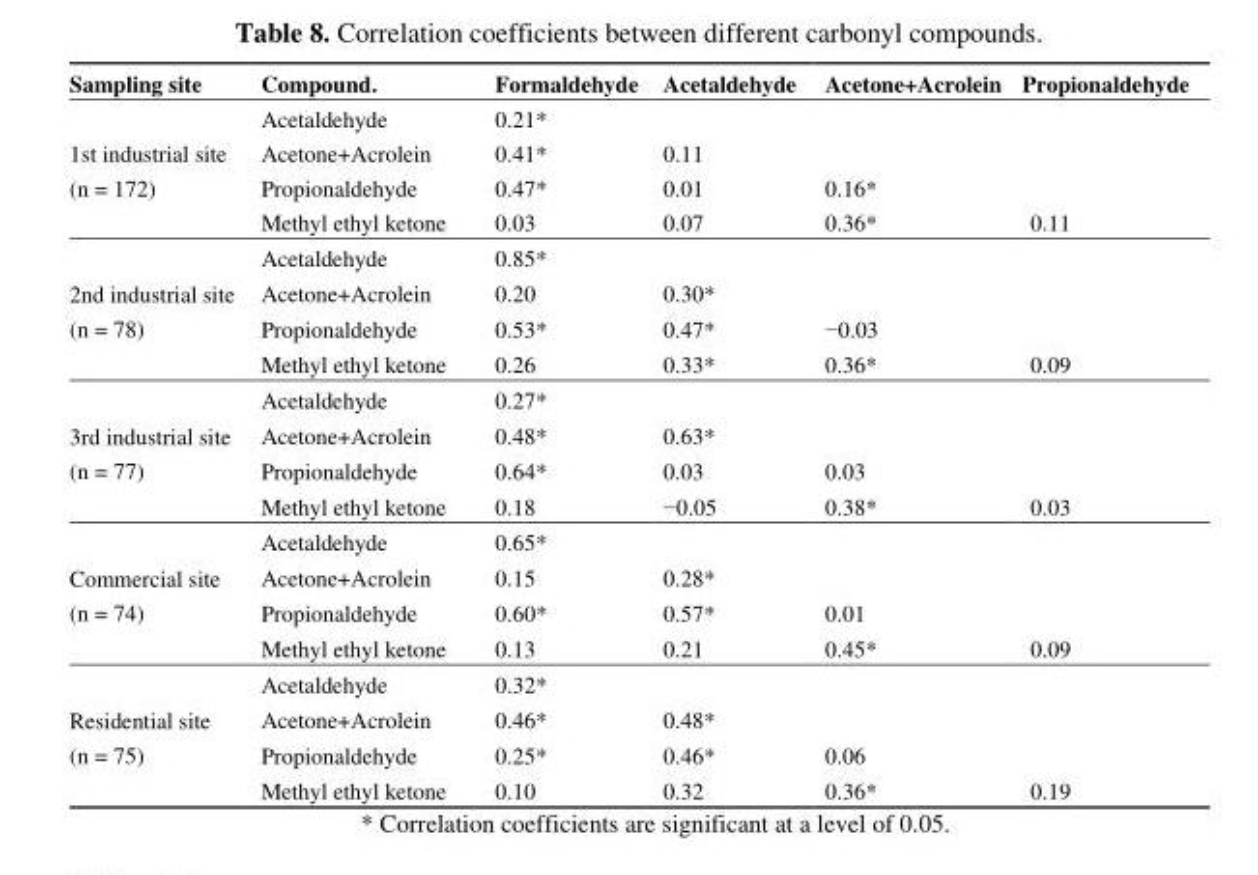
<table><thead><tr><td>Sampling site</td><td>Compound.</td><td>Formaldehyde</td><td>Acetaldehyde</td><td>Acetone+Acrolein</td><td>Propionaldehyde</td></tr></thead><tbody><tr><td rowspan="4">1st industrial site (n = 172)</td><td>Acetaldehyde</td><td>0.21*</td><td></td><td></td><td></td></tr><tr><td>Acetone+Acrolein</td><td>0.41*</td><td>0.11</td><td></td><td></td></tr><tr><td>Propionaldehyde</td><td>0.47*</td><td>0.01</td><td>0.16*</td><td></td></tr><tr><td>Methyl ethyl ketone</td><td>0.03</td><td>0.07</td><td>0.36*</td><td>0.11</td></tr><tr><td rowspan="4">2nd industrial site (n = 78)</td><td>Acetaldehyde</td><td>0.85*</td><td></td><td></td><td></td></tr><tr><td>Acetone+Acrolein</td><td>0.20</td><td>0.30*</td><td></td><td></td></tr><tr><td>Propionaldehyde</td><td>0.53*</td><td>0.47*</td><td>−0.03</td><td></td></tr><tr><td>Methyl ethyl ketone</td><td>0.26</td><td>0.33*</td><td>0.36*</td><td>0.09</td></tr><tr><td rowspan="4">3rd industrial site (n = 77)</td><td>Acetaldehyde</td><td>0.27*</td><td></td><td></td><td></td></tr><tr><td>Acetone+Acrolein</td><td>0.48*</td><td>0.63*</td><td></td><td></td></tr><tr><td>Propionaldehyde</td><td>0.64*</td><td>0.03</td><td>0.03</td><td></td></tr><tr><td>Methyl ethyl ketone</td><td>0.18</td><td>−0.05</td><td>0.38*</td><td>0.03</td></tr><tr><td rowspan="4">Commercial site (n = 74)</td><td>Acetaldehyde</td><td>0.65*</td><td></td><td></td><td></td></tr><tr><td>Acetone+Acrolein</td><td>0.15</td><td>0.28*</td><td></td><td></td></tr><tr><td>Propionaldehyde</td><td>0.60*</td><td>0.57*</td><td>0.01</td><td></td></tr><tr><td>Methyl ethyl ketone</td><td>0.13</td><td>0.21</td><td>0.45*</td><td>0.09</td></tr><tr><td rowspan="4">Residential site (n = 75)</td><td>Acetaldehyde</td><td>0.32*</td><td></td><td></td><td></td></tr><tr><td>Acetone+Acrolein</td><td>0.46*</td><td>0.48*</td><td></td><td></td></tr><tr><td>Propionaldehyde</td><td>0.25*</td><td>0.46*</td><td>0.06</td><td></td></tr><tr><td>Methyl ethyl ketone</td><td>0.10</td><td>0.32</td><td>0.36*</td><td>0.19</td></tr></tbody></table>